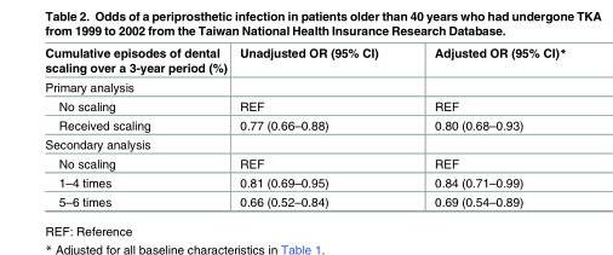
<table><thead><tr><td>Cumulative episodes of dental scaling over a 3-year period (%)</td><td>Unadjusted OR (95% CI)</td><td>Adjusted OR (95% CI)*</td></tr></thead><tbody><tr><td colspan="3">Primary analysis</td></tr><tr><td>No scaling</td><td>REF</td><td>REF</td></tr><tr><td>Received scaling</td><td>0.77 (0.66–0.88)</td><td>0.80 (0.68–0.93)</td></tr><tr><td colspan="3">Secondary analysis</td></tr><tr><td>No scaling</td><td>REF</td><td>REF</td></tr><tr><td>1–4 times</td><td>0.81 (0.69–0.95)</td><td>0.84 (0.71–0.99)</td></tr><tr><td>5–6 times</td><td>0.66 (0.52–0.84)</td><td>0.69 (0.54–0.89)</td></tr></tbody></table>